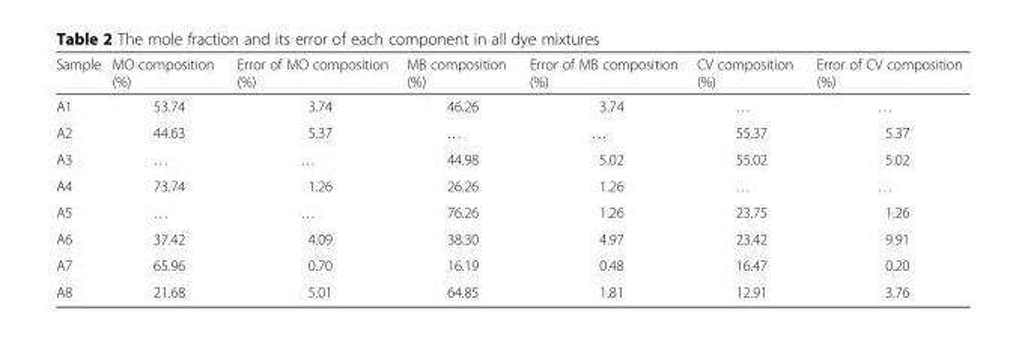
<table><thead><tr><td>Sample</td><td>MO composition (%)</td><td>Error of MO composition (%)</td><td>MB composition (%)</td><td>Error of MB composition (%)</td><td>CV composition (%)</td><td>Error of CV composition (%)</td></tr></thead><tbody><tr><td>A1</td><td>53.74</td><td>3.74</td><td>46.26</td><td>3.74</td><td>…</td><td>…</td></tr><tr><td>A2</td><td>44.63</td><td>5.37</td><td>…</td><td>…</td><td>55.37</td><td>5.37</td></tr><tr><td>A3</td><td>…</td><td>…</td><td>44.98</td><td>5.02</td><td>55.02</td><td>5.02</td></tr><tr><td>A4</td><td>73.74</td><td>1.26</td><td>26.26</td><td>1.26</td><td>…</td><td>…</td></tr><tr><td>A5</td><td>…</td><td>…</td><td>76.26</td><td>1.26</td><td>23.75</td><td>1.26</td></tr><tr><td>A6</td><td>37.42</td><td>4.09</td><td>38.30</td><td>4.97</td><td>23.42</td><td>9.91</td></tr><tr><td>A7</td><td>65.96</td><td>0.70</td><td>16.19</td><td>0.48</td><td>16.47</td><td>0.20</td></tr><tr><td>A8</td><td>21.68</td><td>5.01</td><td>64.85</td><td>1.81</td><td>12.91</td><td>3.76</td></tr></tbody></table>